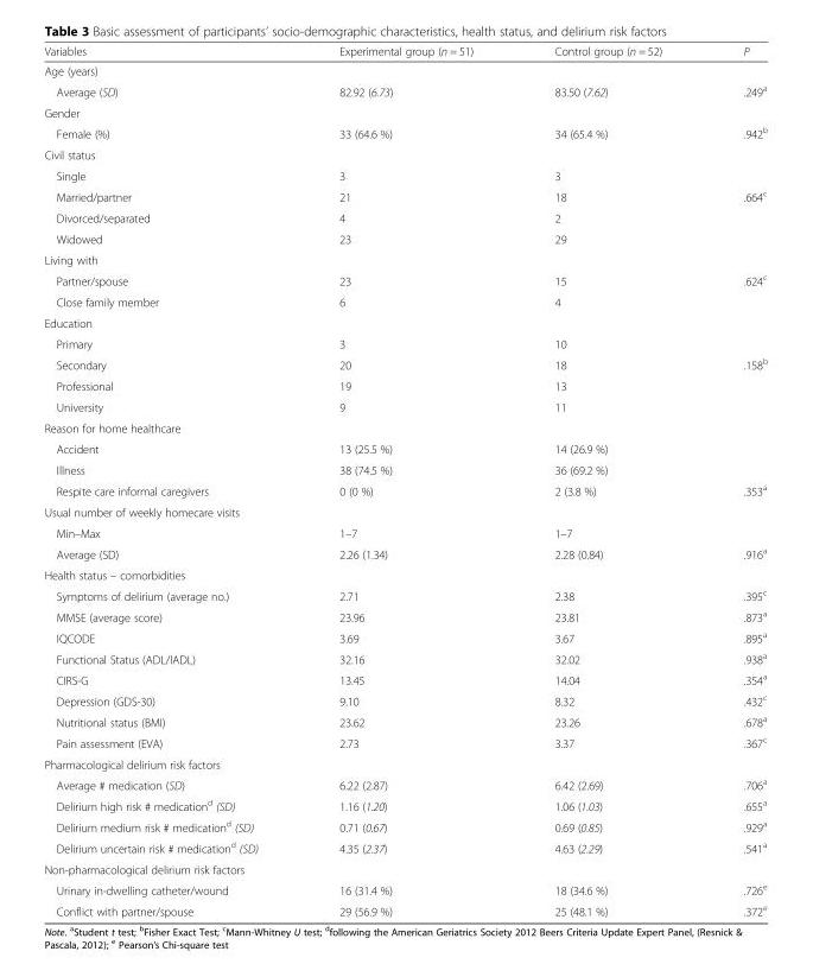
<table><thead><tr><td>Variables</td><td>Experimental group (n = 51)</td><td>Control group (n = 52)</td><td>P</td></tr></thead><tbody><tr><td colspan="4">Age (years)</td></tr><tr><td>Average (SD)</td><td>82.92 (6.73)</td><td>83.50 (7.62)</td><td>.249<sup>a</sup></td></tr><tr><td colspan="4">Gender</td></tr><tr><td>Female (%)</td><td>33 (64.6 %)</td><td>34 (65.4 %)</td><td>.942<sup>b</sup></td></tr><tr><td colspan="4">Civil status</td></tr><tr><td>Single</td><td>3</td><td>3</td><td></td></tr><tr><td>Married/partner</td><td>21</td><td>18</td><td>.664<sup>c</sup></td></tr><tr><td>Divorced/separated</td><td>4</td><td>2</td><td></td></tr><tr><td>Widowed</td><td>23</td><td>29</td><td></td></tr><tr><td colspan="4">Living with</td></tr><tr><td>Partner/spouse</td><td>23</td><td>15</td><td>.624<sup>c</sup></td></tr><tr><td>Close family member</td><td>6</td><td>4</td><td></td></tr><tr><td colspan="4">Education</td></tr><tr><td>Primary</td><td>3</td><td>10</td><td></td></tr><tr><td>Secondary</td><td>20</td><td>18</td><td>.158<sup>b</sup></td></tr><tr><td>Professional</td><td>19</td><td>13</td><td></td></tr><tr><td>University</td><td>9</td><td>11</td><td></td></tr><tr><td colspan="4">Reason for home healthcare</td></tr><tr><td>Accident</td><td>13 (25.5 %)</td><td>14 (26.9 %)</td><td></td></tr><tr><td>Illness</td><td>38 (74.5 %)</td><td>36 (69.2 %)</td><td></td></tr><tr><td>Respite care informal caregivers</td><td>0 (0 %)</td><td>2 (3.8 %)</td><td>.353<sup>a</sup></td></tr><tr><td colspan="4">Usual number of weekly homecare visits</td></tr><tr><td>Min–Max</td><td>1–7</td><td>1–7</td><td></td></tr><tr><td>Average (SD)</td><td>2.26 (1.34)</td><td>2.28 (0.84)</td><td>.916<sup>a</sup></td></tr><tr><td colspan="4">Health status – comorbidities</td></tr><tr><td>Symptoms of delirium (average no.)</td><td>2.71</td><td>2.38</td><td>.395<sup>c</sup></td></tr><tr><td>MMSE (average score)</td><td>23.96</td><td>23.81</td><td>.873<sup>a</sup></td></tr><tr><td>IQCODE</td><td>3.69</td><td>3.67</td><td>.895<sup>a</sup></td></tr><tr><td>Functional Status (ADL/IADL)</td><td>32.16</td><td>32.02</td><td>.938<sup>a</sup></td></tr><tr><td>CIRS-G</td><td>13.45</td><td>14.04</td><td>.354<sup>a</sup></td></tr><tr><td>Depression (GDS-30)</td><td>9.10</td><td>8.32</td><td>.432<sup>c</sup></td></tr><tr><td>Nutritional status (BMI)</td><td>23.62</td><td>23.26</td><td>.678<sup>a</sup></td></tr><tr><td>Pain assessment (EVA)</td><td>2.73</td><td>3.37</td><td>.367<sup>c</sup></td></tr><tr><td colspan="4">Pharmacological delirium risk factors</td></tr><tr><td>Average # medication (SD)</td><td>6.22 (2.87)</td><td>6.42 (2.69)</td><td>.706<sup>a</sup></td></tr><tr><td>Delirium high risk # medication<sup>d</sup> (SD)</td><td>1.16 (1.20)</td><td>1.06 (1.03)</td><td>.655<sup>a</sup></td></tr><tr><td>Delirium medium risk # medication<sup>d</sup> (SD)</td><td>0.71 (0.67)</td><td>0.69 (0.85)</td><td>.929<sup>a</sup></td></tr><tr><td>Delirium uncertain risk # medication<sup>d</sup> (SD)</td><td>4.35 (2.37)</td><td>4.63 (2.29)</td><td>.541<sup>a</sup></td></tr><tr><td colspan="4">Non-pharmacological delirium risk factors</td></tr><tr><td>Urinary in-dwelling catheter/wound</td><td>16 (31.4 %)</td><td>18 (34.6 %)</td><td>.726<sup>e</sup></td></tr><tr><td>Conflict with partner/spouse</td><td>29 (56.9 %)</td><td>25 (48.1 %)</td><td>.372<sup>e</sup></td></tr></tbody></table>